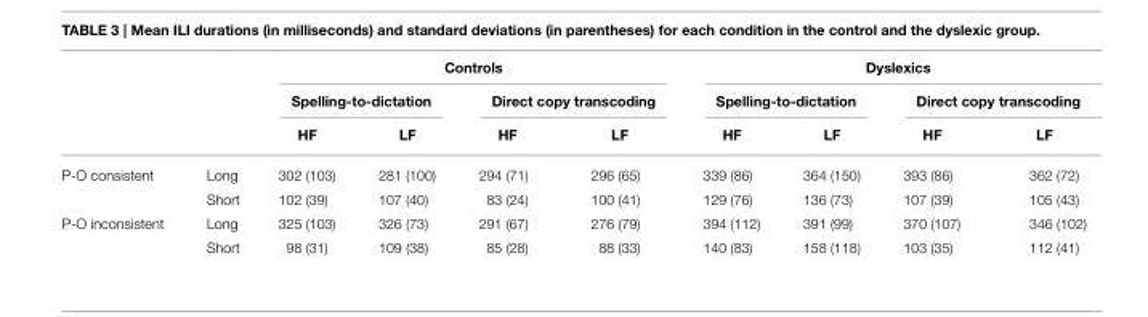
<table><thead><tr><td rowspan="3"></td><td rowspan="3"></td><td colspan="4">Controls</td><td colspan="4">Dyslexics</td></tr><tr><td colspan="2">Spelling-to-dictation</td><td colspan="2">Direct copy transcoding</td><td colspan="2">Spelling-to-dictation</td><td colspan="2">Direct copy transcoding</td></tr><tr><td>HF</td><td>LF</td><td>HF</td><td>LF</td><td>HF</td><td>LF</td><td>HF</td><td>LF</td></tr></thead><tbody><tr><td rowspan="2">P-O consistent</td><td>Long</td><td>302 (103)</td><td>281 (100)</td><td>294 (71)</td><td>296 (65)</td><td>339 (86)</td><td>364 (150)</td><td>393 (86)</td><td>362 (72)</td></tr><tr><td>Short</td><td>102 (39)</td><td>107 (40)</td><td>83 (24)</td><td>100 (41)</td><td>129 (76)</td><td>136 (73)</td><td>107 (39)</td><td>105 (43)</td></tr><tr><td rowspan="2">P-O inconsistent</td><td>Long</td><td>325 (103)</td><td>326 (73)</td><td>291 (67)</td><td>276 (79)</td><td>394 (112)</td><td>391 (99)</td><td>370 (107)</td><td>346 (102)</td></tr><tr><td>Short</td><td>98 (31)</td><td>109 (38)</td><td>85 (28)</td><td>88 (33)</td><td>140 (83)</td><td>158 (118)</td><td>103 (35)</td><td>112 (41)</td></tr></tbody></table>